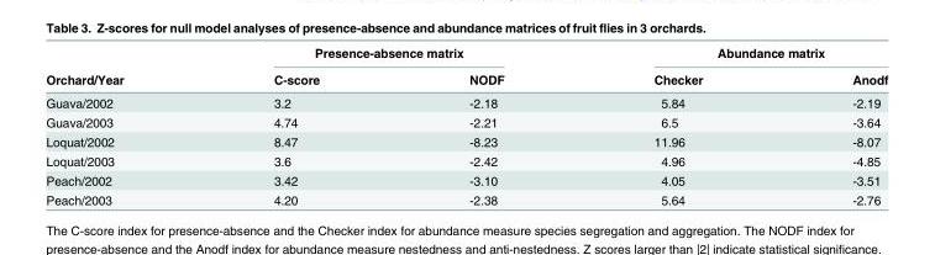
<table><thead><tr><td rowspan="2">Orchard/Year</td><td colspan="2">Presence-absence matrix</td><td colspan="2">Abundance matrix</td></tr><tr><td>C-score</td><td>NODF</td><td>Checker</td><td>Anodf</td></tr></thead><tbody><tr><td>Guava/2002</td><td>3.2</td><td>-2.18</td><td>5.84</td><td>-2.19</td></tr><tr><td>Guava/2003</td><td>4.74</td><td>-2.21</td><td>6.5</td><td>-3.64</td></tr><tr><td>Loquat/2002</td><td>8.47</td><td>-8.23</td><td>11.96</td><td>-8.07</td></tr><tr><td>Loquat/2003</td><td>3.6</td><td>-2.42</td><td>4.96</td><td>-4.85</td></tr><tr><td>Peach/2002</td><td>3.42</td><td>-3.10</td><td>4.05</td><td>-3.51</td></tr><tr><td>Peach/2003</td><td>4.20</td><td>-2.38</td><td>5.64</td><td>-2.76</td></tr></tbody></table>